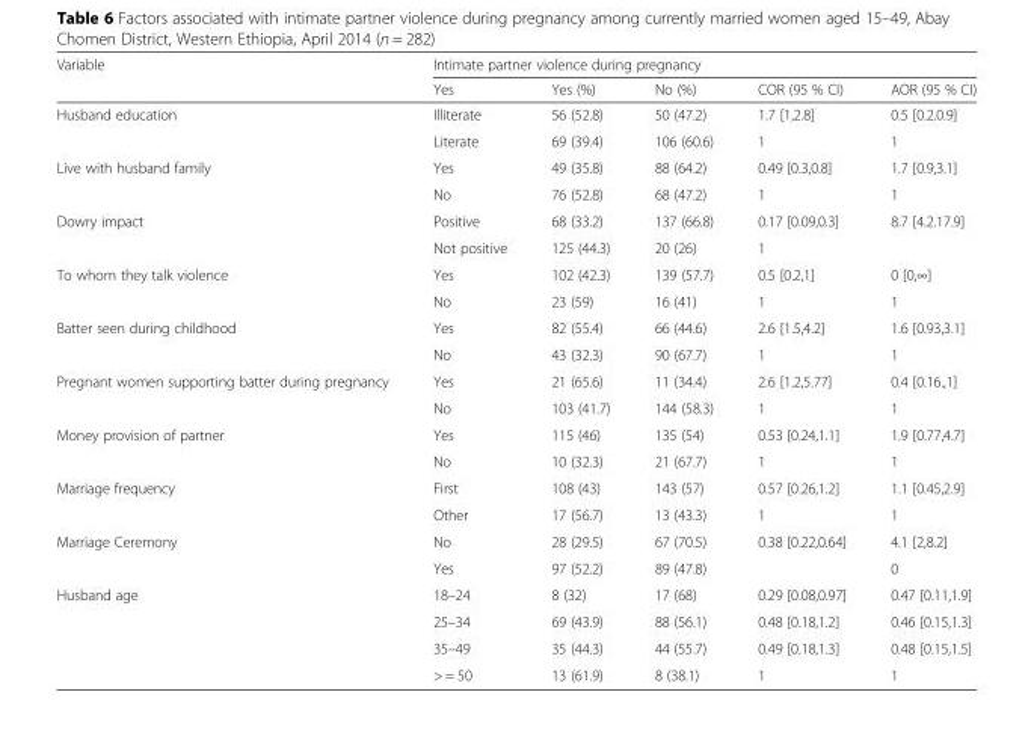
<table><thead><tr><td rowspan="2">Variable</td><td colspan="5">Intimate partner violence during pregnancy</td></tr><tr><td>Yes</td><td>Yes (%)</td><td>No (%)</td><td>COR (95 % CI)</td><td>AOR (95 % CI)</td></tr></thead><tbody><tr><td rowspan="2">Husband education</td><td>Illiterate</td><td>56 (52.8)</td><td>50 (47.2)</td><td>1.7 [1,2.8]</td><td>0.5 [0.2.0.9]</td></tr><tr><td>Literate</td><td>69 (39.4)</td><td>106 (60.6)</td><td>1</td><td>1</td></tr><tr><td rowspan="2">Live with husband family</td><td>Yes</td><td>49 (35.8)</td><td>88 (64.2)</td><td>0.49 [0.3,0.8]</td><td>1.7 [0.9,3.1]</td></tr><tr><td>No</td><td>76 (52.8)</td><td>68 (47.2)</td><td>1</td><td>1</td></tr><tr><td rowspan="2">Dowry impact</td><td>Positive</td><td>68 (33.2)</td><td>137 (66.8)</td><td>0.17 [0.09,0.3]</td><td>8.7 [4.2.17.9]</td></tr><tr><td>Not positive</td><td>125 (44.3)</td><td>20 (26)</td><td>1</td><td></td></tr><tr><td rowspan="2">To whom they talk violence</td><td>Yes</td><td>102 (42.3)</td><td>139 (57.7)</td><td>0.5 [0.2,1]</td><td>0 [0,∞]</td></tr><tr><td>No</td><td>23 (59)</td><td>16 (41)</td><td>1</td><td>1</td></tr><tr><td rowspan="2">Batter seen during childhood</td><td>Yes</td><td>82 (55.4)</td><td>66 (44.6)</td><td>2.6 [1.5,4.2]</td><td>1.6 [0.93,3.1]</td></tr><tr><td>No</td><td>43 (32.3)</td><td>90 (67.7)</td><td>1</td><td>1</td></tr><tr><td rowspan="2">Pregnant women supporting batter during pregnancy</td><td>Yes</td><td>21 (65.6)</td><td>11 (34.4)</td><td>2.6 [1.2,5.77]</td><td>0.4 [0.16.,1]</td></tr><tr><td>No</td><td>103 (41.7)</td><td>144 (58.3)</td><td>1</td><td>1</td></tr><tr><td rowspan="2">Money provision of partner</td><td>Yes</td><td>115 (46)</td><td>135 (54)</td><td>0.53 [0.24,1.1]</td><td>1.9 [0.77,4.7]</td></tr><tr><td>No</td><td>10 (32.3)</td><td>21 (67.7)</td><td>1</td><td>1</td></tr><tr><td rowspan="2">Marriage frequency</td><td>First</td><td>108 (43)</td><td>143 (57)</td><td>0.57 [0.26,1.2]</td><td>1.1 [0.45,2.9]</td></tr><tr><td>Other</td><td>17 (56.7)</td><td>13 (43.3)</td><td>1</td><td>1</td></tr><tr><td rowspan="2">Marriage Ceremony</td><td>No</td><td>28 (29.5)</td><td>67 (70.5)</td><td>0.38 [0.22,0.64]</td><td>4.1 [2,8.2]</td></tr><tr><td>Yes</td><td>97 (52.2)</td><td>89 (47.8)</td><td></td><td>0</td></tr><tr><td rowspan="4">Husband age</td><td>18–24</td><td>8 (32)</td><td>17 (68)</td><td>0.29 [0.08,0.97]</td><td>0.47 [0.11,1.9]</td></tr><tr><td>25–34</td><td>69 (43.9)</td><td>88 (56.1)</td><td>0.48 [0.18,1.2]</td><td>0.46 [0.15,1.3]</td></tr><tr><td>35–49</td><td>35 (44.3)</td><td>44 (55.7)</td><td>0.49 [0.18,1.3]</td><td>0.48 [0.15,1.5]</td></tr><tr><td>&gt; = 50</td><td>13 (61.9)</td><td>8 (38.1)</td><td>1</td><td>1</td></tr></tbody></table>